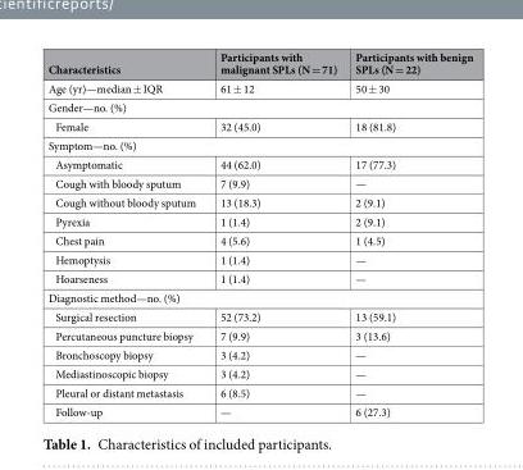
<table><thead><tr><td>Characteristics</td><td>Participants with malignant SPLs (N = 71)</td><td>Participants with benign SPLs (N = 22)</td></tr></thead><tbody><tr><td>Age (yr)—median ± IQR</td><td>61 ± 12</td><td>50 ± 30</td></tr><tr><td colspan="3">Gender—no. (%)</td></tr><tr><td>Female</td><td>32 (45.0)</td><td>18 (81.8)</td></tr><tr><td colspan="3">Symptom—no. (%)</td></tr><tr><td>Asymptomatic</td><td>44 (62.0)</td><td>17 (77.3)</td></tr><tr><td>Cough with bloody sputum</td><td>7 (9.9)</td><td>—</td></tr><tr><td>Cough without bloody sputum</td><td>13 (18.3)</td><td>2 (9.1)</td></tr><tr><td>Pyrexia</td><td>1 (1.4)</td><td>2 (9.1)</td></tr><tr><td>Chest pain</td><td>4 (5.6)</td><td>1 (4.5)</td></tr><tr><td>Hemoptysis</td><td>1 (1.4)</td><td>—</td></tr><tr><td>Hoarseness</td><td>1 (1.4)</td><td>—</td></tr><tr><td colspan="3">Diagnostic method—no. (%)</td></tr><tr><td>Surgical resection</td><td>52 (73.2)</td><td>13 (59.1)</td></tr><tr><td>Percutaneous puncture biopsy</td><td>7 (9.9)</td><td>3 (13.6)</td></tr><tr><td>Bronchoscopy biopsy</td><td>3 (4.2)</td><td>—</td></tr><tr><td>Mediastinoscopic biopsy</td><td>3 (4.2)</td><td>—</td></tr><tr><td>Pleural or distant metastasis</td><td>6 (8.5)</td><td>—</td></tr><tr><td>Follow-up</td><td>—</td><td>6 (27.3)</td></tr></tbody></table>